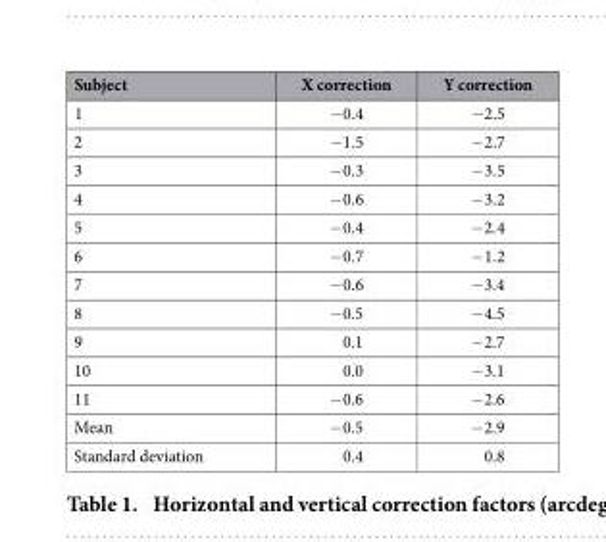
<table><thead><tr><td>Subject</td><td>X correction</td><td>Y correction</td></tr></thead><tbody><tr><td>1</td><td>− 0.4</td><td>− 2.5</td></tr><tr><td>2</td><td>− 1.5</td><td>− 2.7</td></tr><tr><td>3</td><td>− 0.3</td><td>− 3.5</td></tr><tr><td>4</td><td>− 0.6</td><td>− 3.2</td></tr><tr><td>5</td><td>− 0.4</td><td>− 2.4</td></tr><tr><td>6</td><td>− 0.7</td><td>− 1.2</td></tr><tr><td>7</td><td>− 0.6</td><td>− 3.4</td></tr><tr><td>8</td><td>− 0.5</td><td>− 4.5</td></tr><tr><td>9</td><td>0.1</td><td>− 2.7</td></tr><tr><td>10</td><td>0.0</td><td>− 3.1</td></tr><tr><td>11</td><td>− 0.6</td><td>− 2.6</td></tr><tr><td>Mean</td><td>− 0.5</td><td>− 2.9</td></tr><tr><td>Standard deviation</td><td>0.4</td><td>0.8</td></tr></tbody></table>